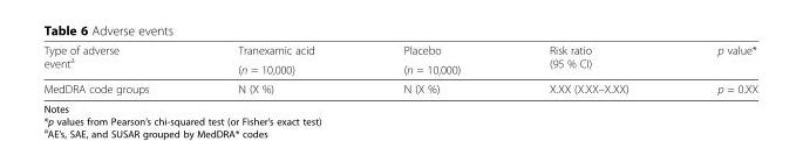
<table><thead><tr><td rowspan="2">Type of adverse event<sup>a</sup></td><td rowspan="2">Tranexamic acid (n = 10,000)</td><td rowspan="2">Placebo (n = 10,000)</td><td rowspan="2">Risk ratio (95 % CI)</td><td rowspan="2">p value*</td></tr><tr></tr></thead><tbody><tr><td>MedDRA code groups</td><td>N (X %)</td><td>N (X %)</td><td>X.XX (X.XX–X.XX)</td><td>p = 0.XX</td></tr></tbody></table>